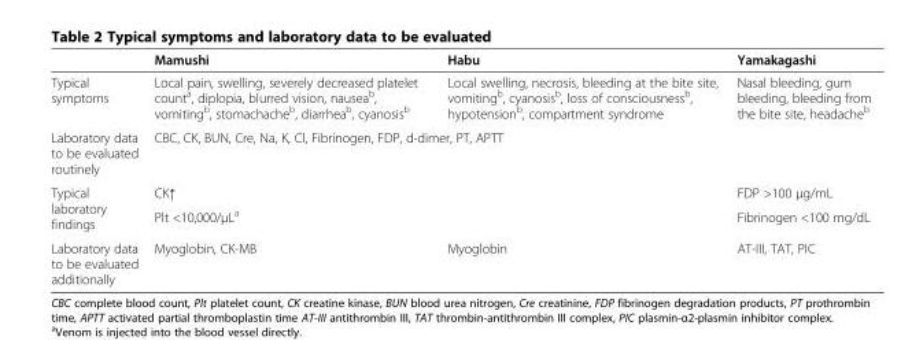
<table><thead><tr><td></td><td>Mamushi</td><td>Habu</td><td>Yamakagashi</td></tr></thead><tbody><tr><td>Typical symptoms</td><td>Local pain, swelling, severely decreased platelet count<sup>a</sup>, diplopia, blurred vision, nausea<sup>b</sup>, vomiting<sup>b</sup>, stomachache<sup>b</sup>, diarrhea<sup>b</sup>, cyanosis<sup>b</sup></td><td>Local swelling, necrosis, bleeding at the bite site, vomiting<sup>b</sup>, cyanosis<sup>b</sup>, loss of consciousness<sup>b</sup>, hypotension<sup>b</sup>, compartment syndrome</td><td>Nasal bleeding, gum bleeding, bleeding from the bite site, headache<sup>b</sup></td></tr><tr><td>Laboratory data to be evaluated routinely</td><td colspan="3">CBC, CK, BUN, Cre, Na, K, Cl, Fibrinogen, FDP, d-dimer, PT, APTT</td></tr><tr><td rowspan="2">Typical laboratory findings</td><td>CK↑</td><td rowspan="2"></td><td>FDP &gt;100 μg/mL</td></tr><tr><td>Plt &lt;10,000/μL<sup>a</sup></td><td>Fibrinogen &lt;100 mg/dL</td></tr><tr><td>Laboratory data to be evaluated additionally</td><td>Myoglobin, CK-MB</td><td>Myoglobin</td><td>AT-III, TAT, PIC</td></tr></tbody></table>